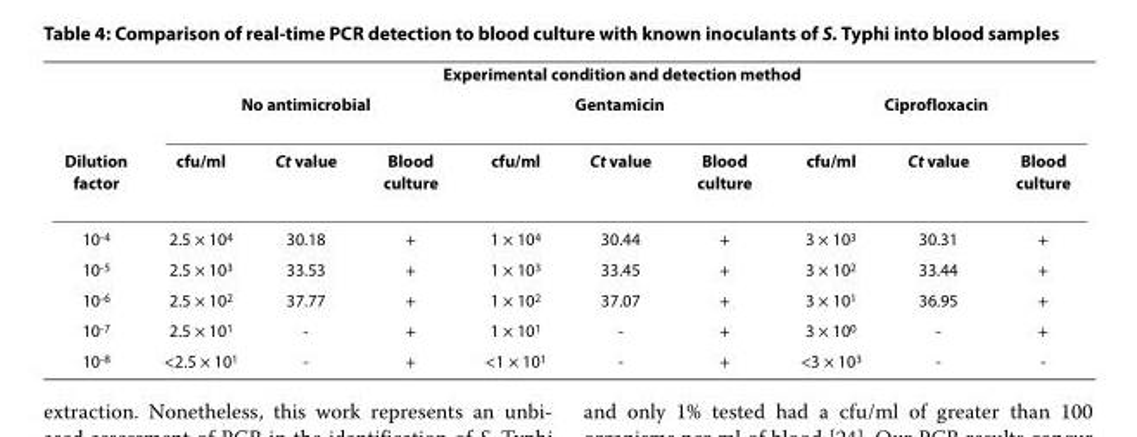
<table><thead><tr><td rowspan="3">Dilution factor</td><td colspan="9">Experimental condition and detection method</td></tr><tr><td colspan="3">No antimicrobial</td><td colspan="3">Gentamicin</td><td colspan="3">Ciprofloxacin</td></tr><tr><td>cfu/ml</td><td>Ct value</td><td>Blood culture</td><td>cfu/ml</td><td>Ct value</td><td>Blood culture</td><td>cfu/ml</td><td>Ct value</td><td>Blood culture</td></tr></thead><tbody><tr><td>10<sup>-4</sup></td><td>2.5 × 10<sup>4</sup></td><td>30.18</td><td>+</td><td>1 × 10<sup>4</sup></td><td>30.44</td><td>+</td><td>3 × 10<sup>3</sup></td><td>30.31</td><td>+</td></tr><tr><td>10<sup>-5</sup></td><td>2.5 × 10<sup>3</sup></td><td>33.53</td><td>+</td><td>1 × 10<sup>3</sup></td><td>33.45</td><td>+</td><td>3 × 10<sup>2</sup></td><td>33.44</td><td>+</td></tr><tr><td>10<sup>-6</sup></td><td>2.5 × 10<sup>2</sup></td><td>37.77</td><td>+</td><td>1 × 10<sup>2</sup></td><td>37.07</td><td>+</td><td>3 × 10<sup>1</sup></td><td>36.95</td><td>+</td></tr><tr><td>10<sup>-7</sup></td><td>2.5 × 10<sup>1</sup></td><td>-</td><td>+</td><td>1 × 10<sup>1</sup></td><td>-</td><td>+</td><td>3 × 10<sup>0</sup></td><td>-</td><td>+</td></tr><tr><td>10<sup>-8</sup></td><td>&lt;2.5 × 10<sup>1</sup></td><td>-</td><td>+</td><td>&lt;1 × 10<sup>1</sup></td><td>-</td><td>+</td><td>&lt;3 × 10<sup>3</sup></td><td>-</td><td>-</td></tr></tbody></table>